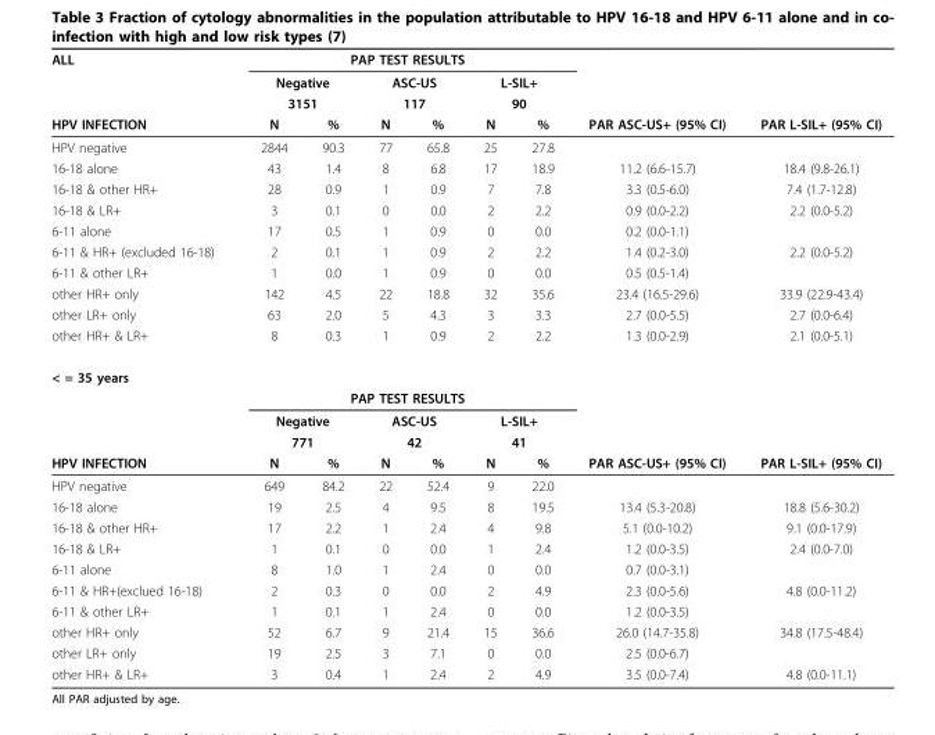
<table><thead><tr><td rowspan="4">ALL HPV INFECTION</td><td colspan="6">PAP TEST RESULTS</td><td rowspan="4">PAR ASC-US+ (95% CI)</td><td rowspan="4">PAR L-SIL+ (95% CI)</td></tr><tr><td rowspan="2" colspan="2">Negative 3151</td><td rowspan="2" colspan="2">ASC-US 117</td><td rowspan="2" colspan="2">L-SIL+ 90</td></tr><tr></tr><tr><td>N</td><td>%</td><td>N</td><td>%</td><td>N</td><td>%</td></tr></thead><tbody><tr><td>HPV negative</td><td>2844</td><td>90.3</td><td>77</td><td>65.8</td><td>25</td><td>27.8</td><td></td><td></td></tr><tr><td>16-18 alone</td><td>43</td><td>1.4</td><td>8</td><td>6.8</td><td>17</td><td>18.9</td><td>11.2 (6.6-15.7)</td><td>18.4 (9.8-26.1)</td></tr><tr><td>16-18 &amp; other HR+</td><td>28</td><td>0.9</td><td>1</td><td>0.9</td><td>7</td><td>7.8</td><td>3.3 (0.5-6.0)</td><td>7.4 (1.7-12.8)</td></tr><tr><td>16-18 &amp; LR+</td><td>3</td><td>0.1</td><td>0</td><td>0.0</td><td>2</td><td>2.2</td><td>0.9 (0.0-2.2)</td><td>2.2 (0.0-5.2)</td></tr><tr><td>6-11 alone</td><td>17</td><td>0.5</td><td>1</td><td>0.9</td><td>0</td><td>0.0</td><td>0.2 (0.0-1.1)</td><td></td></tr><tr><td>6-11 &amp; HR+ (excluded 16-18)</td><td>2</td><td>0.1</td><td>1</td><td>0.9</td><td>2</td><td>2.2</td><td>1.4 (0.2-3.0)</td><td>2.2 (0.0-5.2)</td></tr><tr><td>6-11 &amp; other LR+</td><td>1</td><td>0.0</td><td>1</td><td>0.9</td><td>0</td><td>0.0</td><td>0.5 (0.5-1.4)</td><td></td></tr><tr><td>other HR+ only</td><td>142</td><td>4.5</td><td>22</td><td>18.8</td><td>32</td><td>35.6</td><td>23.4 (16.5-29.6)</td><td>33.9 (22.9-43.4)</td></tr><tr><td>other LR+ only</td><td>63</td><td>2.0</td><td>5</td><td>4.3</td><td>3</td><td>3.3</td><td>2.7 (0.0-5.5)</td><td>2.7 (0.0-6.4)</td></tr><tr><td>other HR+ &amp; LR+</td><td>8</td><td>0.3</td><td>1</td><td>0.9</td><td>2</td><td>2.2</td><td>1.3 (0.0-2.9)</td><td>2.1 (0.0-5.1)</td></tr><tr><td colspan="9">&lt; = 35 years</td></tr><tr><td></td><td colspan="6">PAP TEST RESULTS</td><td></td><td></td></tr><tr><td></td><td colspan="2">Negative</td><td colspan="2">ASC-US</td><td colspan="2">L-SIL+</td><td></td><td></td></tr><tr><td></td><td colspan="2">771</td><td colspan="2">42</td><td colspan="2">41</td><td></td><td></td></tr><tr><td>HPV INFECTION</td><td>N</td><td>%</td><td>N</td><td>%</td><td>N</td><td>%</td><td>PAR ASC-US+ (95% CI)</td><td>PAR L-SIL+ (95% CI)</td></tr><tr><td>HPV negative</td><td>649</td><td>84.2</td><td>22</td><td>52.4</td><td>9</td><td>22.0</td><td></td><td></td></tr><tr><td>16-18 alone</td><td>19</td><td>2.5</td><td>4</td><td>9.5</td><td>8</td><td>19.5</td><td>13.4 (5.3-20.8)</td><td>18.8 (5.6-30.2)</td></tr><tr><td>16-18 &amp; other HR+</td><td>17</td><td>2.2</td><td>1</td><td>2.4</td><td>4</td><td>9.8</td><td>5.1 (0.0-10.2)</td><td>9.1 (0.0-17.9)</td></tr><tr><td>16-18 &amp; LR+</td><td>1</td><td>0.1</td><td>0</td><td>0.0</td><td>1</td><td>2.4</td><td>1.2 (0.0-3.5)</td><td>2.4 (0.0-7.0)</td></tr><tr><td>6-11 alone</td><td>8</td><td>1.0</td><td>1</td><td>2.4</td><td>0</td><td>0.0</td><td>0.7 (0.0-3.1)</td><td></td></tr><tr><td>6-11 &amp; HR+(exclued 16-18)</td><td>2</td><td>0.3</td><td>0</td><td>0.0</td><td>2</td><td>4.9</td><td>2.3 (0.0-5.6)</td><td>4.8 (0.0-11.2)</td></tr><tr><td>6-11 &amp; other LR+</td><td>1</td><td>0.1</td><td>1</td><td>2.4</td><td>0</td><td>0.0</td><td>1.2 (0.0-3.5)</td><td></td></tr><tr><td>other HR+ only</td><td>52</td><td>6.7</td><td>9</td><td>21.4</td><td>15</td><td>36.6</td><td>26.0 (14.7-35.8)</td><td>34.8 (17.5-48.4)</td></tr><tr><td>other LR+ only</td><td>19</td><td>2.5</td><td>3</td><td>7.1</td><td>0</td><td>0.0</td><td>2.5 (0.0-6.7)</td><td></td></tr><tr><td>other HR+ &amp; LR+</td><td>3</td><td>0.4</td><td>1</td><td>2.4</td><td>2</td><td>4.9</td><td>3.5 (0.0-7.4)</td><td>4.8 (0.0-11.1)</td></tr></tbody></table>